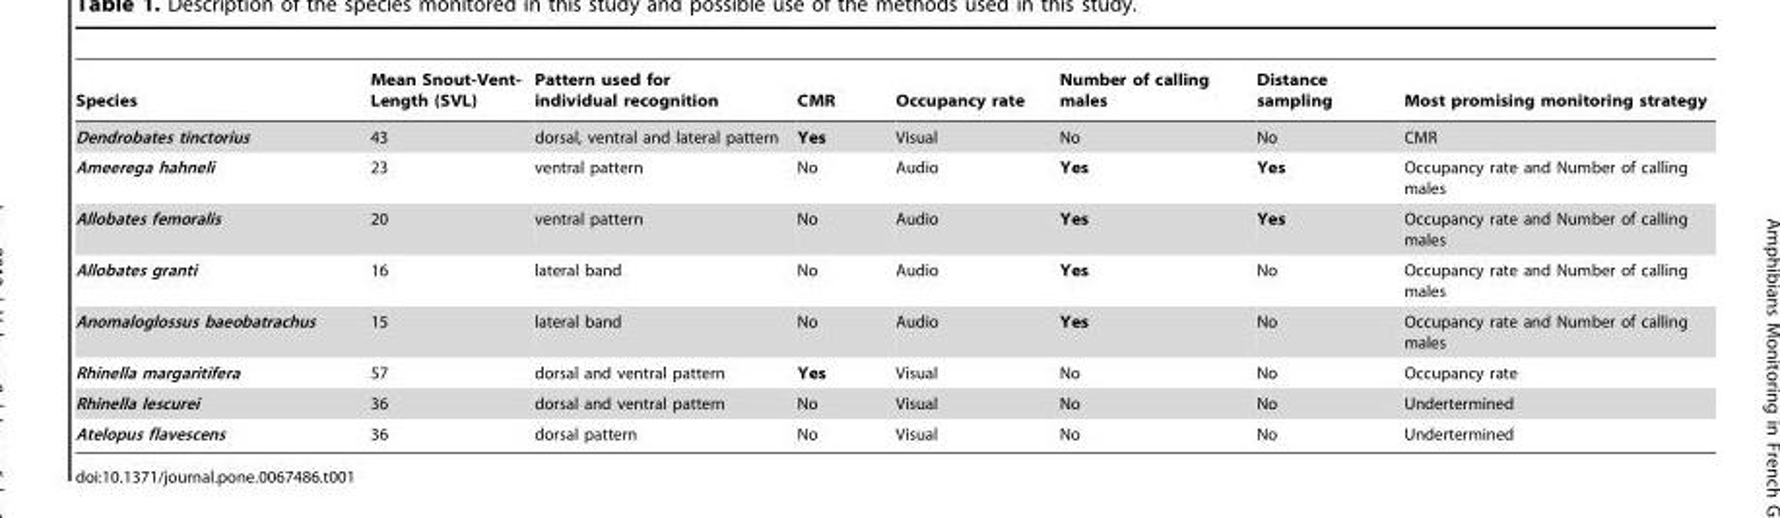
<table><thead><tr><td>Species</td><td>Mean Snout-Vent- Length (SVL)</td><td>Pattern used for individual recognition</td><td>CMR</td><td>Occupancy rate</td><td>Number of calling males</td><td>Distance sampling</td><td>Most promising monitoring strategy</td></tr></thead><tbody><tr><td>Dendrobates tinctorius</td><td>43</td><td>dorsal, ventral and lateral pattern</td><td>Yes</td><td>Visual</td><td>No</td><td>No</td><td>CMR</td></tr><tr><td>Ameerega hahneli</td><td>23</td><td>ventral pattern</td><td>No</td><td>Audio</td><td>Yes</td><td>Yes</td><td>Occupancy rate and Number of calling males</td></tr><tr><td>Allobates femoralis</td><td>20</td><td>ventral pattern</td><td>No</td><td>Audio</td><td>Yes</td><td>Yes</td><td>Occupancy rate and Number of calling males</td></tr><tr><td>Allobates granti</td><td>16</td><td>lateral band</td><td>No</td><td>Audio</td><td>Yes</td><td>No</td><td>Occupancy rate and Number of calling males</td></tr><tr><td>Anomaloglossus baeobatrachus</td><td>15</td><td>lateral band</td><td>No</td><td>Audio</td><td>Yes</td><td>No</td><td>Occupancy rate and Number of calling males</td></tr><tr><td>Rhinella margaritifera</td><td>57</td><td>dorsal and ventral pattern</td><td>Yes</td><td>Visual</td><td>No</td><td>No</td><td>Occupancy rate</td></tr><tr><td>Rhinella lescurei</td><td>36</td><td>dorsal and ventral pattern</td><td>No</td><td>Visual</td><td>No</td><td>No</td><td>Undertermined</td></tr><tr><td>Atelopus flavescens</td><td>36</td><td>dorsal pattern</td><td>No</td><td>Visual</td><td>No</td><td>No</td><td>Undertermined</td></tr></tbody></table>